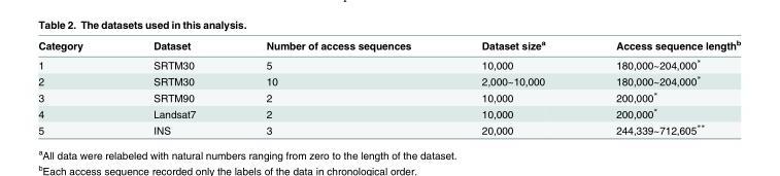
<table><thead><tr><td>Category</td><td>Dataset</td><td>Number of access sequences</td><td>Dataset size<sup>a</sup></td><td>Access sequence length<sup>b</sup></td></tr></thead><tbody><tr><td>1</td><td>SRTM30</td><td>5</td><td>10,000</td><td>180,000~204,000*</td></tr><tr><td>2</td><td>SRTM30</td><td>10</td><td>2,000~10,000</td><td>180,000~204,000*</td></tr><tr><td>3</td><td>SRTM90</td><td>2</td><td>10,000</td><td>200,000*</td></tr><tr><td>4</td><td>Landsat7</td><td>2</td><td>10,000</td><td>200,000*</td></tr><tr><td>5</td><td>INS</td><td>3</td><td>20,000</td><td>244,339~712,605**</td></tr></tbody></table>